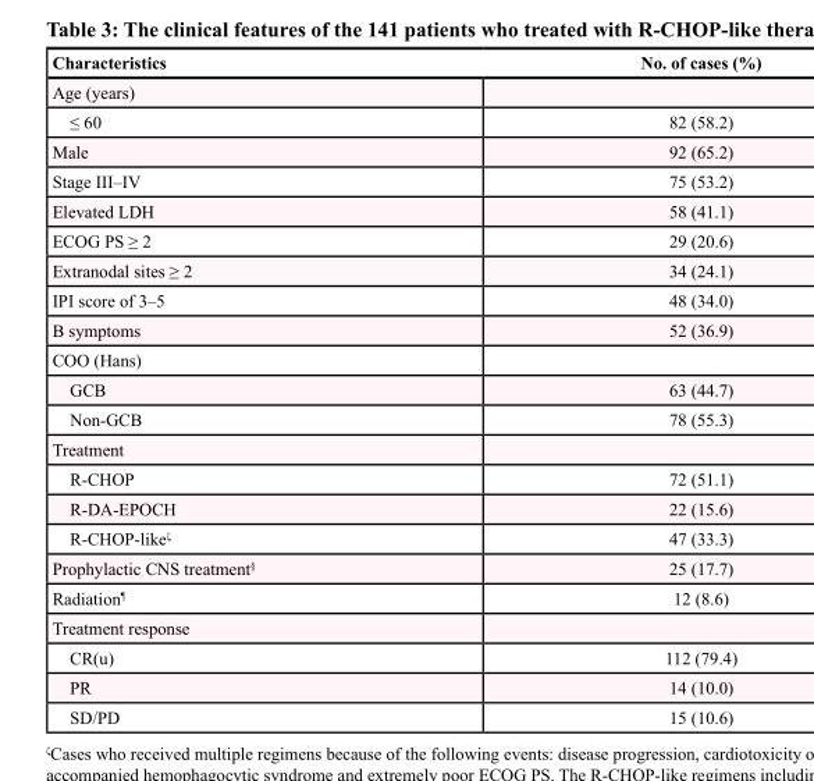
<table><thead><tr><td>Characteristics</td><td>No. of cases (%)</td></tr></thead><tbody><tr><td colspan="2">Age (years)</td></tr><tr><td>≤ 60</td><td>82 (58.2)</td></tr><tr><td>Male</td><td>92 (65.2)</td></tr><tr><td>Stage III–IV</td><td>75 (53.2)</td></tr><tr><td>Elevated LDH</td><td>58 (41.1)</td></tr><tr><td>ECOG PS ≥ 2</td><td>29 (20.6)</td></tr><tr><td>Extranodal sites ≥ 2</td><td>34 (24.1)</td></tr><tr><td>IPI score of 3–5</td><td>48 (34.0)</td></tr><tr><td>B symptoms</td><td>52 (36.9)</td></tr><tr><td colspan="2">COO (Hans)</td></tr><tr><td>GCB</td><td>63 (44.7)</td></tr><tr><td>Non-GCB</td><td>78 (55.3)</td></tr><tr><td colspan="2">Treatment</td></tr><tr><td>R-CHOP</td><td>72 (51.1)</td></tr><tr><td>R-DA-EPOCH</td><td>22 (15.6)</td></tr><tr><td>R-CHOP-like<sup>ζ</sup></td><td>47 (33.3)</td></tr><tr><td>Prophylactic CNS treatment<sup>§</sup></td><td>25 (17.7)</td></tr><tr><td>Radiation<sup>¶</sup></td><td>12 (8.6)</td></tr><tr><td colspan="2">Treatment response</td></tr><tr><td>CR(u)</td><td>112 (79.4)</td></tr><tr><td>PR</td><td>14 (10.0)</td></tr><tr><td>SD/PD</td><td>15 (10.6)</td></tr></tbody></table>